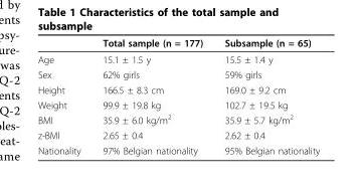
<table><thead><tr><td></td><td>Total sample (n = 177)</td><td>Subsample (n = 65)</td></tr></thead><tbody><tr><td>Age</td><td>15.1 ± 1.5 y</td><td>15.5 ± 1.4 y</td></tr><tr><td>Sex</td><td>62% girls</td><td>59% girls</td></tr><tr><td>Height</td><td>166.5 ± 8.3 cm</td><td>169.0 ± 9.2 cm</td></tr><tr><td>Weight</td><td>99.9 ± 19.8 kg</td><td>102.7 ± 19.5 kg</td></tr><tr><td>BMI</td><td>35.9 ± 6.0 kg/m<sup>2</sup></td><td>35.9 ± 5.7 kg/m<sup>2</sup></td></tr><tr><td>z-BMI</td><td>2.65 ± 0.4</td><td>2.62 ± 0.4</td></tr><tr><td>Nationality</td><td>97% Belgian nationality</td><td>95% Belgian nationality</td></tr></tbody></table>